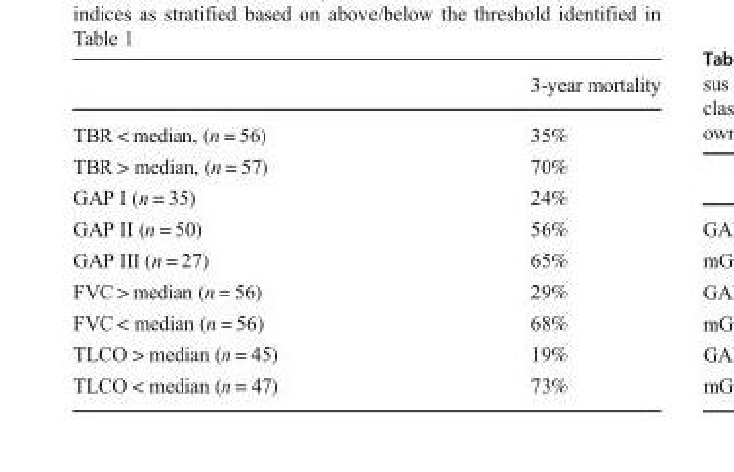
<table><thead><tr><td></td><td>3-year mortality</td></tr></thead><tbody><tr><td>TBR &lt; median, (n = 56)</td><td>35%</td></tr><tr><td>TBR &gt; median, (n = 57)</td><td>70%</td></tr><tr><td>GAP I (n = 35)</td><td>24%</td></tr><tr><td>GAP II (n = 50)</td><td>56%</td></tr><tr><td>GAP III (n = 27)</td><td>65%</td></tr><tr><td>FVC &gt; median (n = 56)</td><td>29%</td></tr><tr><td>FVC &lt; median (n = 56)</td><td>68%</td></tr><tr><td>TLCO &gt; median (n = 45)</td><td>19%</td></tr><tr><td>TLCO &lt; median (n = 47)</td><td>73%</td></tr></tbody></table>